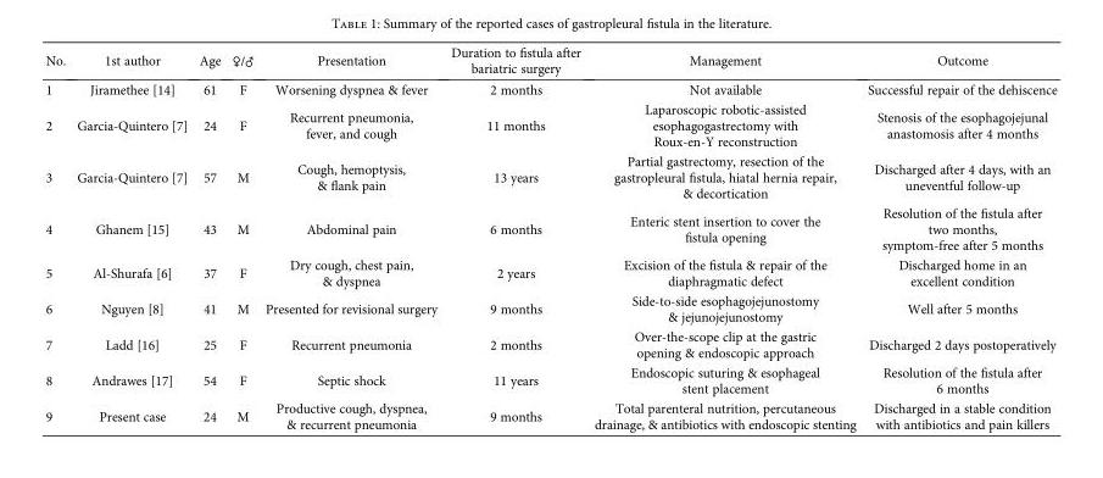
<table><thead><tr><td>No.</td><td>1st author</td><td>Age</td><td>♀/♂</td><td>Presentation</td><td>Duration to fistula after bariatric surgery</td><td>Management</td><td>Outcome</td></tr></thead><tbody><tr><td>1</td><td>Jiramethee [14]</td><td>61</td><td>F</td><td>Worsening dyspnea &amp; fever</td><td>2 months</td><td>Not available</td><td>Successful repair of the dehiscence</td></tr><tr><td>2</td><td>Garcia-Quintero [7]</td><td>24</td><td>F</td><td>Recurrent pneumonia, fever, and cough</td><td>11 months</td><td>Laparoscopic robotic-assisted esophagogastrectomy with Roux-en-Y reconstruction</td><td>Stenosis of the esophagojejunal anastomosis after 4 months</td></tr><tr><td>3</td><td>Garcia-Quintero [7]</td><td>57</td><td>M</td><td>Cough, hemoptysis, &amp; flank pain</td><td>13 years</td><td>Partial gastrectomy, resection of the gastropleural fistula, hiatal hernia repair, &amp; decortication</td><td>Discharged after 4 days, with an uneventful follow-up</td></tr><tr><td>4</td><td>Ghanem [15]</td><td>43</td><td>M</td><td>Abdominal pain</td><td>6 months</td><td>Enteric stent insertion to cover the fistula opening</td><td>Resolution of the fistula after two months, symptom-free after 5 months</td></tr><tr><td>5</td><td>Al-Shurafa [6]</td><td>37</td><td>F</td><td>Dry cough, chest pain, &amp; dyspnea</td><td>2 years</td><td>Excision of the fistula &amp; repair of the diaphragmatic defect</td><td>Discharged home in an excellent condition</td></tr><tr><td>6</td><td>Nguyen [8]</td><td>41</td><td>M</td><td>Presented for revisional surgery</td><td>9 months</td><td>Side-to-side esophagojejunostomy &amp; jejunojejunostomy</td><td>Well after 5 months</td></tr><tr><td>7</td><td>Ladd [16]</td><td>25</td><td>F</td><td>Recurrent pneumonia</td><td>2 months</td><td>Over-the-scope clip at the gastric opening &amp; endoscopic approach</td><td>Discharged 2 days postoperatively</td></tr><tr><td>8</td><td>Andrawes [17]</td><td>54</td><td>F</td><td>Septic shock</td><td>11 years</td><td>Endoscopic suturing &amp; esophageal stent placement</td><td>Resolution of the fistula after 6 months</td></tr><tr><td>9</td><td>Present case</td><td>24</td><td>M</td><td>Productive cough, dyspnea, &amp; recurrent pneumonia</td><td>9 months</td><td>Total parenteral nutrition, percutaneous drainage, &amp; antibiotics with endoscopic stenting</td><td>Discharged in a stable condition with antibiotics and pain killers</td></tr></tbody></table>